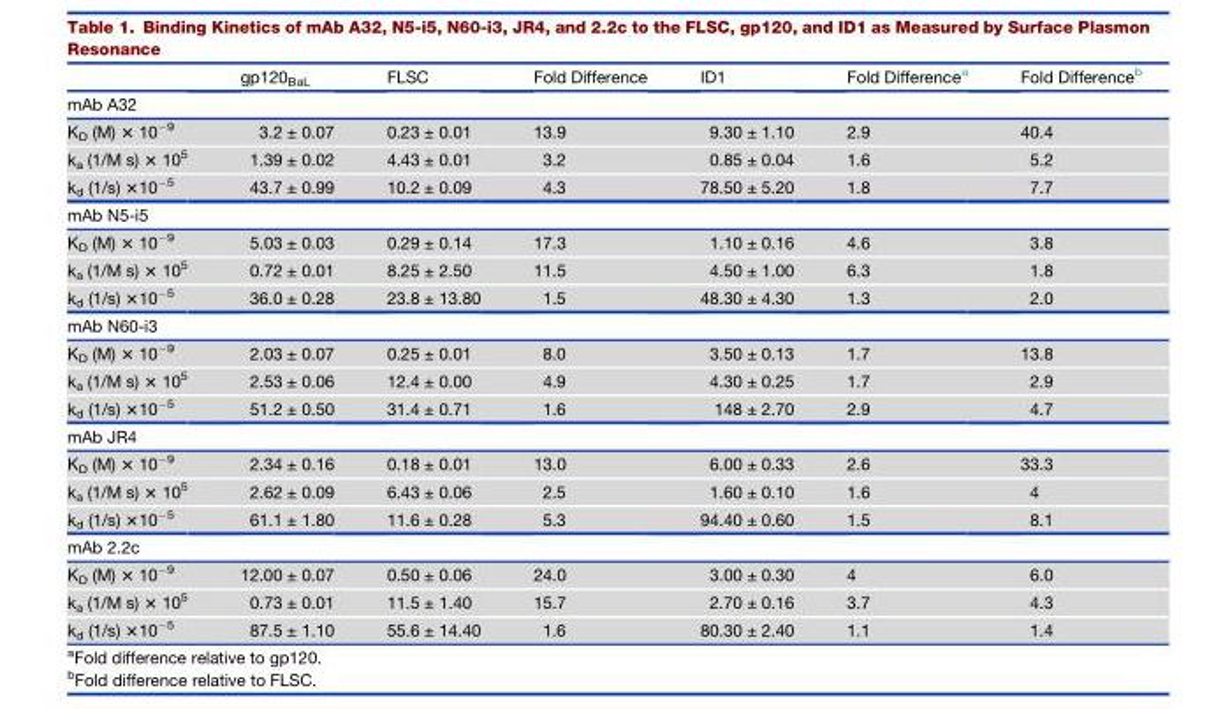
<table><thead><tr><td></td><td>gp120<sub>BaL</sub></td><td>FLSC</td><td>Fold Difference</td><td>ID1</td><td>Fold Difference<sup>a</sup></td><td>Fold Difference<sup>b</sup></td></tr></thead><tbody><tr><td colspan="7">mAb A32</td></tr><tr><td>K<sub>D</sub> (M) × 10<sup>−9</sup></td><td>3.2 ± 0.07</td><td>0.23 ± 0.01</td><td>13.9</td><td>9.30 ± 1.10</td><td>2.9</td><td>40.4</td></tr><tr><td>k<sub>a</sub> (1/M s) × 10<sup>5</sup></td><td>1.39 ± 0.02</td><td>4.43 ± 0.01</td><td>3.2</td><td>0.85 ± 0.04</td><td>1.6</td><td>5.2</td></tr><tr><td>k<sub>d</sub> (1/s) ×10<sup>−5</sup></td><td>43.7 ± 0.99</td><td>10.2 ± 0.09</td><td>4.3</td><td>78.50 ± 5.20</td><td>1.8</td><td>7.7</td></tr><tr><td colspan="7">mAb N5-i5</td></tr><tr><td>K<sub>D</sub> (M) × 10<sup>−9</sup></td><td>5.03 ± 0.03</td><td>0.29 ± 0.14</td><td>17.3</td><td>1.10 ± 0.16</td><td>4.6</td><td>3.8</td></tr><tr><td>k<sub>a</sub> (1/M s) × 10<sup>5</sup></td><td>0.72 ± 0.01</td><td>8.25 ± 2.50</td><td>11.5</td><td>4.50 ± 1.00</td><td>6.3</td><td>1.8</td></tr><tr><td>k<sub>d</sub> (1/s) ×10<sup>−5</sup></td><td>36.0 ± 0.28</td><td>23.8 ± 13.80</td><td>1.5</td><td>48.30 ± 4.30</td><td>1.3</td><td>2.0</td></tr><tr><td colspan="7">mAb N60-i3</td></tr><tr><td>K<sub>D</sub> (M) × 10<sup>−9</sup></td><td>2.03 ± 0.07</td><td>0.25 ± 0.01</td><td>8.0</td><td>3.50 ± 0.13</td><td>1.7</td><td>13.8</td></tr><tr><td>k<sub>a</sub> (1/M s) × 10<sup>5</sup></td><td>2.53 ± 0.06</td><td>12.4 ± 0.00</td><td>4.9</td><td>4.30 ± 0.25</td><td>1.7</td><td>2.9</td></tr><tr><td>k<sub>d</sub> (1/s) ×10<sup>−5</sup></td><td>51.2 ± 0.50</td><td>31.4 ± 0.71</td><td>1.6</td><td>148 ± 2.70</td><td>2.9</td><td>4.7</td></tr><tr><td colspan="7">mAb JR4</td></tr><tr><td>K<sub>D</sub> (M) × 10<sup>−9</sup></td><td>2.34 ± 0.16</td><td>0.18 ± 0.01</td><td>13.0</td><td>6.00 ± 0.33</td><td>2.6</td><td>33.3</td></tr><tr><td>k<sub>a</sub> (1/M s) × 10<sup>5</sup></td><td>2.62 ± 0.09</td><td>6.43 ± 0.06</td><td>2.5</td><td>1.60 ± 0.10</td><td>1.6</td><td>4</td></tr><tr><td>k<sub>d</sub> (1/s) ×10<sup>−5</sup></td><td>61.1 ± 1.80</td><td>11.6 ± 0.28</td><td>5.3</td><td>94.40 ± 0.60</td><td>1.5</td><td>8.1</td></tr><tr><td colspan="7">mAb 2.2c</td></tr><tr><td>K<sub>D</sub> (M) × 10<sup>−9</sup></td><td>12.00 ± 0.07</td><td>0.50 ± 0.06</td><td>24.0</td><td>3.00 ± 0.30</td><td>4</td><td>6.0</td></tr><tr><td>k<sub>a</sub> (1/M s) × 10<sup>5</sup></td><td>0.73 ± 0.01</td><td>11.5 ± 1.40</td><td>15.7</td><td>2.70 ± 0.16</td><td>3.7</td><td>4.3</td></tr><tr><td>k<sub>d</sub> (1/s) ×10<sup>−5</sup></td><td>87.5 ± 1.10</td><td>55.6 ± 14.40</td><td>1.6</td><td>80.30 ± 2.40</td><td>1.1</td><td>1.4</td></tr></tbody></table>